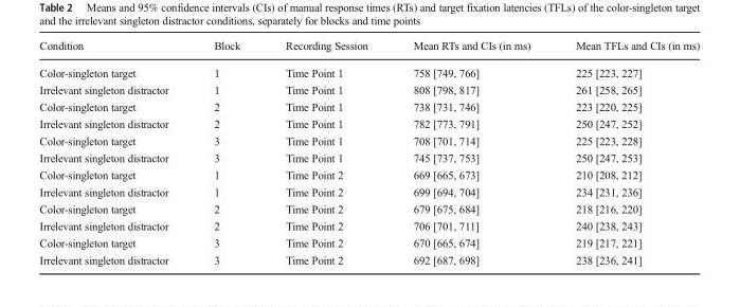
<table><thead><tr><td>Condition</td><td>Block</td><td>Recording Session</td><td>Mean RTs and CIs (in ms)</td><td>Mean TFLs and CIs (in ms)</td></tr></thead><tbody><tr><td>Color-singleton target</td><td>1</td><td>Time Point 1</td><td>758 [749, 766]</td><td>225 [223, 227]</td></tr><tr><td>Irrelevant singleton distractor</td><td>1</td><td>Time Point 1</td><td>808 [798, 817]</td><td>261 [258, 265]</td></tr><tr><td>Color-singleton target</td><td>2</td><td>Time Point 1</td><td>738 [731, 746]</td><td>223 [220, 225]</td></tr><tr><td>Irrelevant singleton distractor</td><td>2</td><td>Time Point 1</td><td>782 [773, 791]</td><td>250 [247, 252]</td></tr><tr><td>Color-singleton target</td><td>3</td><td>Time Point 1</td><td>708 [701, 714]</td><td>225 [223, 228]</td></tr><tr><td>Irrelevant singleton distractor</td><td>3</td><td>Time Point 1</td><td>745 [737, 753]</td><td>250 [247, 253]</td></tr><tr><td>Color-singleton target</td><td>1</td><td>Time Point 2</td><td>669 [665, 673]</td><td>210 [208, 212]</td></tr><tr><td>Irrelevant singleton distractor</td><td>1</td><td>Time Point 2</td><td>699 [694, 704]</td><td>234 [231, 236]</td></tr><tr><td>Color-singleton target</td><td>2</td><td>Time Point 2</td><td>679 [675, 684]</td><td>218 [216, 220]</td></tr><tr><td>Irrelevant singleton distractor</td><td>2</td><td>Time Point 2</td><td>706 [701, 711]</td><td>240 [238, 243]</td></tr><tr><td>Color-singleton target</td><td>3</td><td>Time Point 2</td><td>670 [665, 674]</td><td>219 [217, 221]</td></tr><tr><td>Irrelevant singleton distractor</td><td>3</td><td>Time Point 2</td><td>692 [687, 698]</td><td>238 [236, 241]</td></tr></tbody></table>